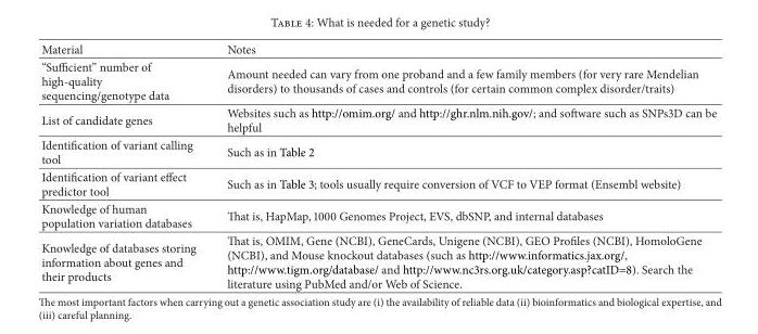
<table><thead><tr><td>Material</td><td>Notes</td></tr></thead><tbody><tr><td>“Sufficient” number of high-quality sequencing/genotype data</td><td>Amount needed can vary from one proband and a few family members (for very rare Mendelian disorders) to thousands of cases and controls (for certain common complex disorder/traits)</td></tr><tr><td>List of candidate genes</td><td>Websites such as http://omim.org/ and http://ghr.nlm.nih.gov/; and software such as SNPs3D can be helpful</td></tr><tr><td>Identification of variant calling tool</td><td>Such as in Table 2</td></tr><tr><td>Identification of variant effect predictor tool</td><td>Such as in Table 3; tools usually require conversion of VCF to VEP format (Ensembl website)</td></tr><tr><td>Knowledge of human population variation databases</td><td>That is, HapMap, 1000 Genomes Project, EVS, dbSNP, and internal databases</td></tr><tr><td>Knowledge of databases storing information about genes and their products</td><td>That is, OMIM, Gene (NCBI), GeneCards, Unigene (NCBI), GEO Profiles (NCBI), HomoloGene (NCBI), and Mouse knockout databases (such as http://www.informatics.jax.org/, http://www.tigm.org/database/ and http://www.nc3rs.org.uk/category.asp?catID=8). Search the literature using PubMed and/or Web of Science.</td></tr></tbody></table>